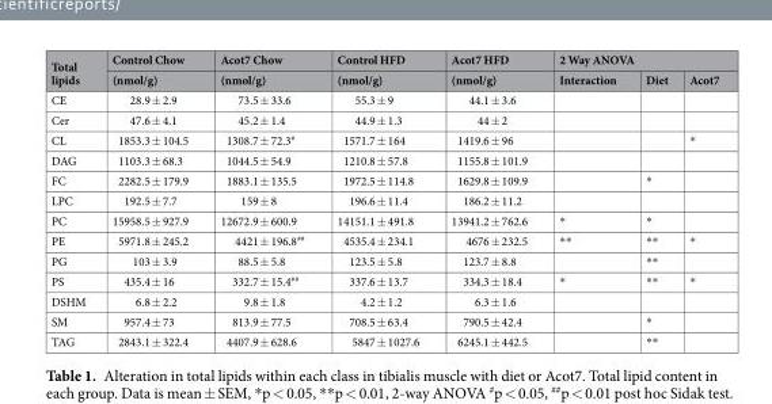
<table><thead><tr><td rowspan="2">Total lipids</td><td rowspan="2">Control Chow (nmol/g)</td><td rowspan="2">Acot7 Chow (nmol/g)</td><td rowspan="2">Control HFD (nmol/g)</td><td rowspan="2">Acot7 HFD (nmol/g)</td><td colspan="3">2 Way ANOVA</td></tr><tr><td>Interaction</td><td>Diet</td><td>Acot7</td></tr></thead><tbody><tr><td>CE</td><td>28.9 ± 2.9</td><td>73.5 ± 33.6</td><td>55.3 ± 9</td><td>44.1 ± 3.6</td><td></td><td></td><td></td></tr><tr><td>Cer</td><td>47.6 ± 4.1</td><td>45.2 ± 1.4</td><td>44.9 ± 1.3</td><td>44 ± 2</td><td></td><td></td><td></td></tr><tr><td>CL</td><td>1853.3 ± 104.5</td><td>1308.7 ± 72.3<sup>#</sup></td><td>1571.7 ± 164</td><td>1419.6 ± 96</td><td></td><td></td><td>*</td></tr><tr><td>DAG</td><td>1103.3 ± 68.3</td><td>1044.5 ± 54.9</td><td>1210.8 ± 57.8</td><td>1155.8 ± 101.9</td><td></td><td></td><td></td></tr><tr><td>FC</td><td>2282.5 ± 179.9</td><td>1883.1 ± 135.5</td><td>1972.5 ± 114.8</td><td>1629.8 ± 109.9</td><td></td><td>*</td><td></td></tr><tr><td>LPC</td><td>192.5 ± 7.7</td><td>159 ± 8</td><td>196.6 ± 11.4</td><td>186.2 ± 11.2</td><td></td><td></td><td></td></tr><tr><td>PC</td><td>15958.5 ± 927.9</td><td>12672.9 ± 600.9</td><td>14151.1 ± 491.8</td><td>13941.2 ± 762.6</td><td>*</td><td>*</td><td></td></tr><tr><td>PE</td><td>5971.8 ± 245.2</td><td>4421 ± 196.8<sup>##</sup></td><td>4535.4 ± 234.1</td><td>4676 ± 232.5</td><td>**</td><td>**</td><td>*</td></tr><tr><td>PG</td><td>103 ± 3.9</td><td>88.5 ± 5.8</td><td>123.5 ± 5.8</td><td>123.7 ± 8.8</td><td></td><td>**</td><td></td></tr><tr><td>PS</td><td>435.4 ± 16</td><td>332.7 ± 15.4<sup>##</sup></td><td>337.6 ± 13.7</td><td>334.3 ± 18.4</td><td>*</td><td>**</td><td>*</td></tr><tr><td>DSHM</td><td>6.8 ± 2.2</td><td>9.8 ± 1.8</td><td>4.2 ± 1.2</td><td>6.3 ± 1.6</td><td></td><td></td><td></td></tr><tr><td>SM</td><td>957.4 ± 73</td><td>813.9 ± 77.5</td><td>708.5 ± 63.4</td><td>790.5 ± 42.4</td><td></td><td>*</td><td></td></tr><tr><td>TAG</td><td>2843.1 ± 322.4</td><td>4407.9 ± 628.6</td><td>5847 ± 1027.6</td><td>6245.1 ± 442.5</td><td></td><td>**</td><td></td></tr></tbody></table>